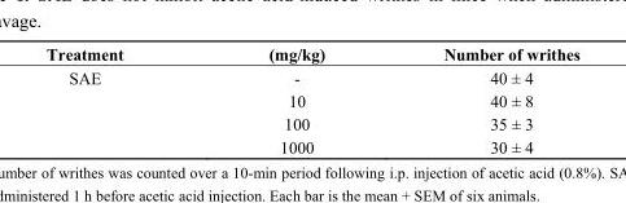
<table><thead><tr><td>Treatment</td><td>(mg/kg)</td><td>Number of writhes</td></tr></thead><tbody><tr><td rowspan="4">SAE</td><td>-</td><td>40 ± 4</td></tr><tr><td>10</td><td>40 ± 8</td></tr><tr><td>100</td><td>35 ± 3</td></tr><tr><td>1000</td><td>30 ± 4</td></tr></tbody></table>